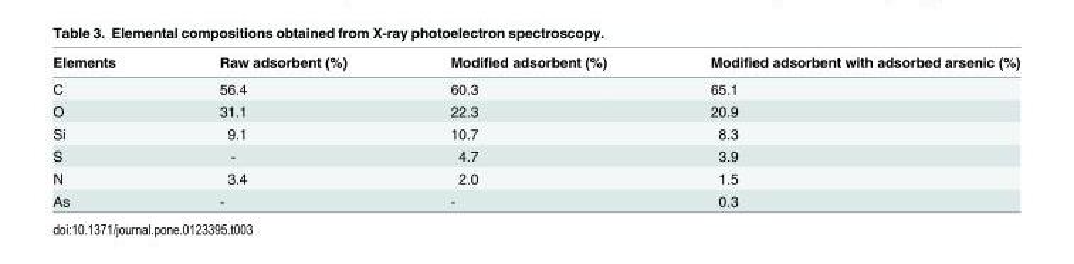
<table><thead><tr><td>Elements</td><td>Raw adsorbent (%)</td><td>Modified adsorbent (%)</td><td>Modified adsorbent with adsorbed arsenic (%)</td></tr></thead><tbody><tr><td>C</td><td>56.4</td><td>60.3</td><td>65.1</td></tr><tr><td>O</td><td>31.1</td><td>22.3</td><td>20.9</td></tr><tr><td>Si</td><td>9.1</td><td>10.7</td><td>8.3</td></tr><tr><td>S</td><td>-</td><td>4.7</td><td>3.9</td></tr><tr><td>N</td><td>3.4</td><td>2.0</td><td>1.5</td></tr><tr><td>As</td><td>-</td><td>-</td><td>0.3</td></tr></tbody></table>